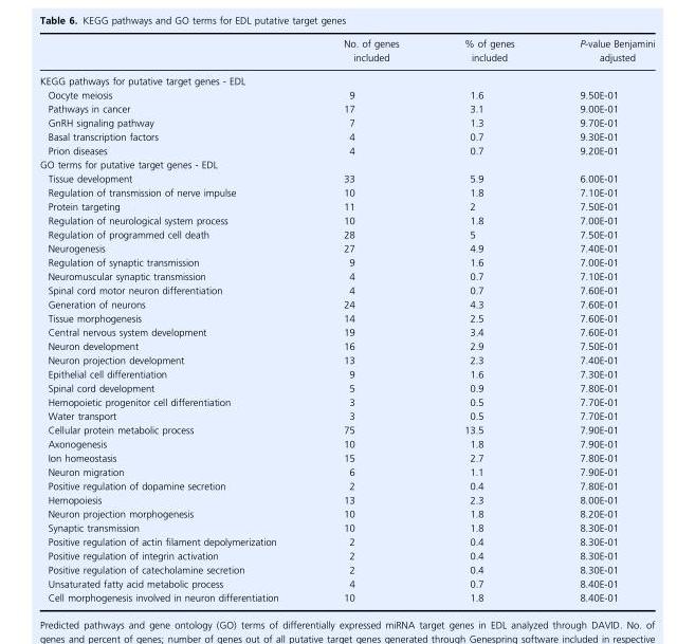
<table><thead><tr><td></td><td>No. of genes included</td><td>% of genes included</td><td>P-value Benjamini adjusted</td></tr></thead><tbody><tr><td colspan="4">KEGG pathways for putative target genes - EDL</td></tr><tr><td>Oocyte meiosis</td><td>9</td><td>1.6</td><td>9.50E-01</td></tr><tr><td>Pathways in cancer</td><td>17</td><td>3.1</td><td>9.00E-01</td></tr><tr><td>GnRH signaling pathway</td><td>7</td><td>1.3</td><td>9.70E-01</td></tr><tr><td>Basal transcription factors</td><td>4</td><td>0.7</td><td>9.30E-01</td></tr><tr><td>Prion diseases</td><td>4</td><td>0.7</td><td>9.20E-01</td></tr><tr><td colspan="4">GO terms for putative target genes - EDL</td></tr><tr><td>Tissue development</td><td>33</td><td>5.9</td><td>6.00E-01</td></tr><tr><td>Regulation of transmission of nerve impulse</td><td>10</td><td>1.8</td><td>7.10E-01</td></tr><tr><td>Protein targeting</td><td>11</td><td>2</td><td>7.50E-01</td></tr><tr><td>Regulation of neurological system process</td><td>10</td><td>1.8</td><td>7.00E-01</td></tr><tr><td>Regulation of programmed cell death</td><td>28</td><td>5</td><td>7.50E-01</td></tr><tr><td>Neurogenesis</td><td>27</td><td>4.9</td><td>7.40E-01</td></tr><tr><td>Regulation of synaptic transmission</td><td>9</td><td>1.6</td><td>7.00E-01</td></tr><tr><td>Neuromuscular synaptic transmission</td><td>4</td><td>0.7</td><td>7.10E-01</td></tr><tr><td>Spinal cord motor neuron differentiation</td><td>4</td><td>0.7</td><td>7.60E-01</td></tr><tr><td>Generation of neurons</td><td>24</td><td>4.3</td><td>7.60E-01</td></tr><tr><td>Tissue morphogenesis</td><td>14</td><td>2.5</td><td>7.60E-01</td></tr><tr><td>Central nervous system development</td><td>19</td><td>3.4</td><td>7.60E-01</td></tr><tr><td>Neuron development</td><td>16</td><td>2.9</td><td>7.50E-01</td></tr><tr><td>Neuron projection development</td><td>13</td><td>2.3</td><td>7.40E-01</td></tr><tr><td>Epithelial cell differentiation</td><td>9</td><td>1.6</td><td>7.30E-01</td></tr><tr><td>Spinal cord development</td><td>5</td><td>0.9</td><td>7.80E-01</td></tr><tr><td>Hemopoietic progenitor cell differentiation</td><td>3</td><td>0.5</td><td>7.70E-01</td></tr><tr><td>Water transport</td><td>3</td><td>0.5</td><td>7.70E-01</td></tr><tr><td>Cellular protein metabolic process</td><td>75</td><td>13.5</td><td>7.90E-01</td></tr><tr><td>Axonogenesis</td><td>10</td><td>1.8</td><td>7.90E-01</td></tr><tr><td>Ion homeostasis</td><td>15</td><td>2.7</td><td>7.80E-01</td></tr><tr><td>Neuron migration</td><td>6</td><td>1.1</td><td>7.90E-01</td></tr><tr><td>Positive regulation of dopamine secretion</td><td>2</td><td>0.4</td><td>7.80E-01</td></tr><tr><td>Hemopoiesis</td><td>13</td><td>2.3</td><td>8.00E-01</td></tr><tr><td>Neuron projection morphogenesis</td><td>10</td><td>1.8</td><td>8.20E-01</td></tr><tr><td>Synaptic transmission</td><td>10</td><td>1.8</td><td>8.30E-01</td></tr><tr><td>Positive regulation of actin filament depolymerization</td><td>2</td><td>0.4</td><td>8.30E-01</td></tr><tr><td>Positive regulation of integrin activation</td><td>2</td><td>0.4</td><td>8.30E-01</td></tr><tr><td>Positive regulation of catecholamine secretion</td><td>2</td><td>0.4</td><td>8.30E-01</td></tr><tr><td>Unsaturated fatty acid metabolic process</td><td>4</td><td>0.7</td><td>8.40E-01</td></tr><tr><td>Cell morphogenesis involved in neuron differentiation</td><td>10</td><td>1.8</td><td>8.40E-01</td></tr></tbody></table>